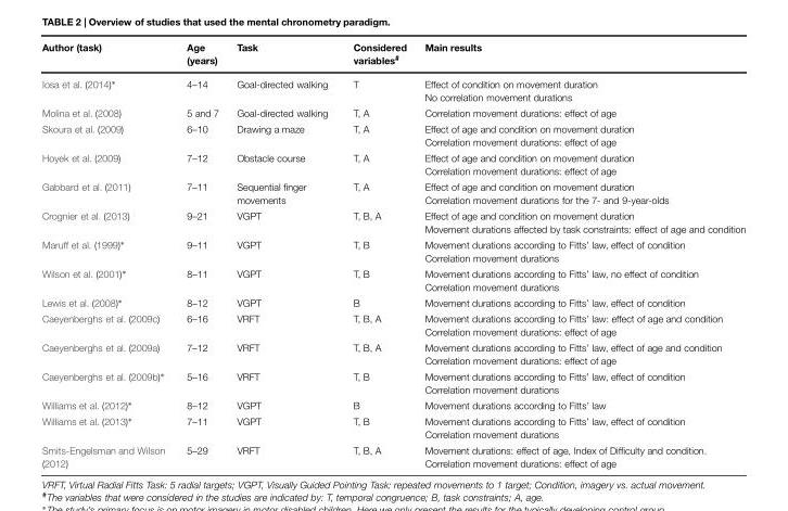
<table><thead><tr><td>Author (task)</td><td>Age (years)</td><td>Task</td><td>Considered variables<sup>#</sup></td><td>Main results</td></tr></thead><tbody><tr><td>Iosa et al. (2014)∗</td><td>4–14</td><td>Goal-directed walking</td><td>T</td><td>Effect of condition on movement duration No correlation movement durations</td></tr><tr><td>Molina et al. (2008)</td><td>5 and 7</td><td>Goal-directed walking</td><td>T, A</td><td>Correlation movement durations: effect of age</td></tr><tr><td>Skoura et al. (2009)</td><td>6–10</td><td>Drawing a maze</td><td>T, A</td><td>Effect of age and condition on movement duration Correlation movement durations: effect of age</td></tr><tr><td>Hoyek et al. (2009)</td><td>7–12</td><td>Obstacle course</td><td>T, A</td><td>Effect of age and condition on movement duration Correlation movement durations: effect of age</td></tr><tr><td>Gabbard et al. (2011)</td><td>7–11</td><td>Sequential finger movements</td><td>T, A</td><td>Effect of age and condition on movement duration Correlation movement durations for the 7- and 9-year-olds</td></tr><tr><td>Crognier et al. (2013)</td><td>9–21</td><td>VGPT</td><td>T, B, A</td><td>Effect of age and condition on movement duration Movement durations affected by task constraints: effect of age and condition</td></tr><tr><td>Maruff et al. (1999)∗</td><td>9–11</td><td>VGPT</td><td>T, B</td><td>Movement durations according to Fitts’ law, effect of condition Correlation movement durations</td></tr><tr><td>Wilson et al. (2001)∗</td><td>8–11</td><td>VGPT</td><td>T, B</td><td>Movement durations according to Fitts’ law, no effect of condition Correlation movement durations</td></tr><tr><td>Lewis et al. (2008)∗</td><td>8–12</td><td>VGPT</td><td>B</td><td>Movement durations according to Fitts’ law, effect of condition</td></tr><tr><td>Caeyenberghs et al. (2009c)</td><td>6–16</td><td>VRFT</td><td>T, B, A</td><td>Movement durations according to Fitts’ law: effect of age and condition Correlation movement durations: effect of age</td></tr><tr><td>Caeyenberghs et al. (2009a)</td><td>7–12</td><td>VRFT</td><td>T, B, A</td><td>Movement durations according to Fitts’ law, effect of age and condition Correlation movement durations: effect of age</td></tr><tr><td>Caeyenberghs et al. (2009b)∗</td><td>5–16</td><td>VRFT</td><td>T, B</td><td>Movement durations according to Fitts’ law, effect of condition Correlation movement durations</td></tr><tr><td>Williams et al. (2012)∗</td><td>8–12</td><td>VGPT</td><td>B</td><td>Movement durations according to Fitts’ law</td></tr><tr><td>Williams et al. (2013)∗</td><td>7–11</td><td>VGPT</td><td>T, B</td><td>Movement durations according to Fitts’ law, effect of condition Correlation movement durations</td></tr><tr><td>Smits-Engelsman and Wilson (2012)</td><td>5–29</td><td>VRFT</td><td>T, B, A</td><td>Movement durations: effect of age, Index of Difficulty and condition. Correlation movement durations: effect of age</td></tr></tbody></table>